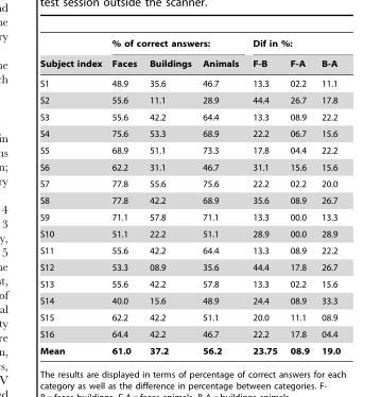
<table><thead><tr><td rowspan="2">Subject index</td><td colspan="3">% of correct answers:</td><td colspan="3">Dif in %:</td></tr><tr><td>Faces</td><td>Buildings</td><td>Animals</td><td>F-B</td><td>F-A</td><td>B-A</td></tr></thead><tbody><tr><td>S1</td><td>48.9</td><td>35.6</td><td>46.7</td><td>13.3</td><td>02.2</td><td>11.1</td></tr><tr><td>S2</td><td>55.6</td><td>11.1</td><td>28.9</td><td>44.4</td><td>26.7</td><td>17.8</td></tr><tr><td>S3</td><td>55.6</td><td>42.2</td><td>64.4</td><td>13.3</td><td>08.9</td><td>22.2</td></tr><tr><td>S4</td><td>75.6</td><td>53.3</td><td>68.9</td><td>22.2</td><td>06.7</td><td>15.6</td></tr><tr><td>S5</td><td>68.9</td><td>51.1</td><td>73.3</td><td>17.8</td><td>04.4</td><td>22.2</td></tr><tr><td>S6</td><td>62.2</td><td>31.1</td><td>46.7</td><td>31.1</td><td>15.6</td><td>15.6</td></tr><tr><td>S7</td><td>77.8</td><td>55.6</td><td>75.6</td><td>22.2</td><td>02.2</td><td>20.0</td></tr><tr><td>S8</td><td>77.8</td><td>42.2</td><td>68.9</td><td>35.6</td><td>08.9</td><td>26.7</td></tr><tr><td>S9</td><td>71.1</td><td>57.8</td><td>71.1</td><td>13.3</td><td>00.0</td><td>13.3</td></tr><tr><td>S10</td><td>51.1</td><td>22.2</td><td>51.1</td><td>28.9</td><td>00.0</td><td>28.9</td></tr><tr><td>S11</td><td>55.6</td><td>42.2</td><td>64.4</td><td>13.3</td><td>08.9</td><td>22.2</td></tr><tr><td>S12</td><td>53.3</td><td>08.9</td><td>35.6</td><td>44.4</td><td>17.8</td><td>26.7</td></tr><tr><td>S13</td><td>55.6</td><td>42.2</td><td>57.8</td><td>13.3</td><td>02.2</td><td>15.6</td></tr><tr><td>S14</td><td>40.0</td><td>15.6</td><td>48.9</td><td>24.4</td><td>08.9</td><td>33.3</td></tr><tr><td>S15</td><td>62.2</td><td>42.2</td><td>51.1</td><td>20.0</td><td>11.1</td><td>08.9</td></tr><tr><td>S16</td><td>64.4</td><td>42.2</td><td>46.7</td><td>22.2</td><td>17.8</td><td>04.4</td></tr><tr><td>Mean</td><td>61.0</td><td>37.2</td><td>56.2</td><td>23.75</td><td>08.9</td><td>19.0</td></tr></tbody></table>